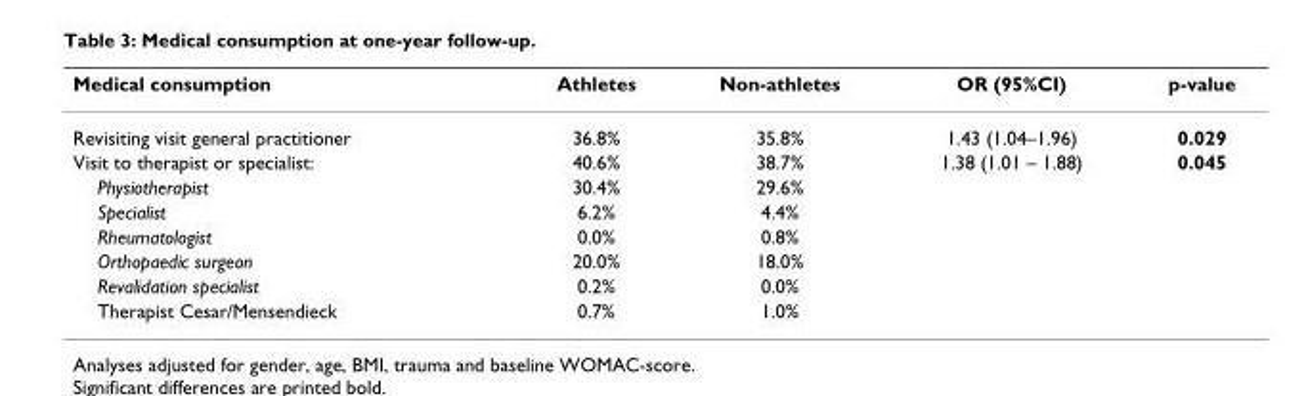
<table><thead><tr><td>Medical consumption</td><td>Athletes</td><td>Non-athletes</td><td>OR (95%CI)</td><td>p-value</td></tr></thead><tbody><tr><td>Revisiting visit general practitioner</td><td>36.8%</td><td>35.8%</td><td>1.43 (1.04–1.96)</td><td>0.029</td></tr><tr><td>Visit to therapist or specialist:</td><td>40.6%</td><td>38.7%</td><td>1.38 (1.01 – 1.88)</td><td>0.045</td></tr><tr><td>Physiotherapist</td><td>30.4%</td><td>29.6%</td><td></td><td></td></tr><tr><td>Specialist</td><td>6.2%</td><td>4.4%</td><td></td><td></td></tr><tr><td>Rheumatologist</td><td>0.0%</td><td>0.8%</td><td></td><td></td></tr><tr><td>Orthopaedic surgeon</td><td>20.0%</td><td>18.0%</td><td></td><td></td></tr><tr><td>Revalidation specialist</td><td>0.2%</td><td>0.0%</td><td></td><td></td></tr><tr><td>Therapist Cesar/Mensendieck</td><td>0.7%</td><td>1.0%</td><td></td><td></td></tr></tbody></table>